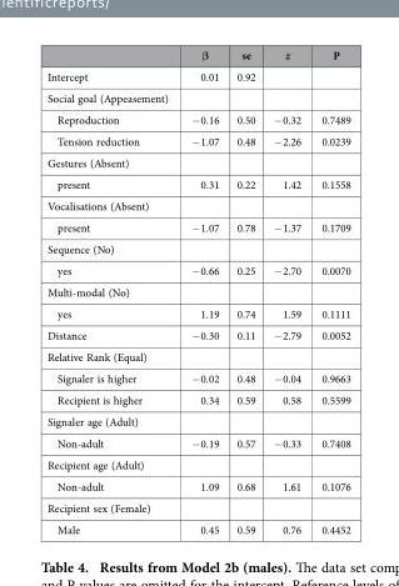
<table><thead><tr><td></td><td>β</td><td>se</td><td>z</td><td>P</td></tr></thead><tbody><tr><td>Intercept</td><td>0.01</td><td>0.92</td><td></td><td></td></tr><tr><td colspan="5">Social goal (Appeasement)</td></tr><tr><td>Reproduction</td><td>− 0.16</td><td>0.50</td><td>− 0.32</td><td>0.7489</td></tr><tr><td>Tension reduction</td><td>− 1.07</td><td>0.48</td><td>− 2.26</td><td>0.0239</td></tr><tr><td colspan="5">Gestures (Absent)</td></tr><tr><td>present</td><td>0.31</td><td>0.22</td><td>1.42</td><td>0.1558</td></tr><tr><td colspan="5">Vocalisations (Absent)</td></tr><tr><td>present</td><td>− 1.07</td><td>0.78</td><td>− 1.37</td><td>0.1709</td></tr><tr><td colspan="5">Sequence (No)</td></tr><tr><td>yes</td><td>− 0.66</td><td>0.25</td><td>− 2.70</td><td>0.0070</td></tr><tr><td colspan="5">Multi-modal (No)</td></tr><tr><td>yes</td><td>1.19</td><td>0.74</td><td>1.59</td><td>0.1111</td></tr><tr><td>Distance</td><td>− 0.30</td><td>0.11</td><td>− 2.79</td><td>0.0052</td></tr><tr><td colspan="5">Relative Rank (Equal)</td></tr><tr><td>Signaler is higher</td><td>− 0.02</td><td>0.48</td><td>− 0.04</td><td>0.9663</td></tr><tr><td>Recipient is higher</td><td>0.34</td><td>0.59</td><td>0.58</td><td>0.5599</td></tr><tr><td colspan="5">Signaler age (Adult)</td></tr><tr><td>Non-adult</td><td>− 0.19</td><td>0.57</td><td>− 0.33</td><td>0.7408</td></tr><tr><td colspan="5">Recipient age (Adult)</td></tr><tr><td>Non-adult</td><td>1.09</td><td>0.68</td><td>1.61</td><td>0.1076</td></tr><tr><td colspan="5">Recipient sex (Female)</td></tr><tr><td>Male</td><td>0.45</td><td>0.59</td><td>0.76</td><td>0.4452</td></tr></tbody></table>